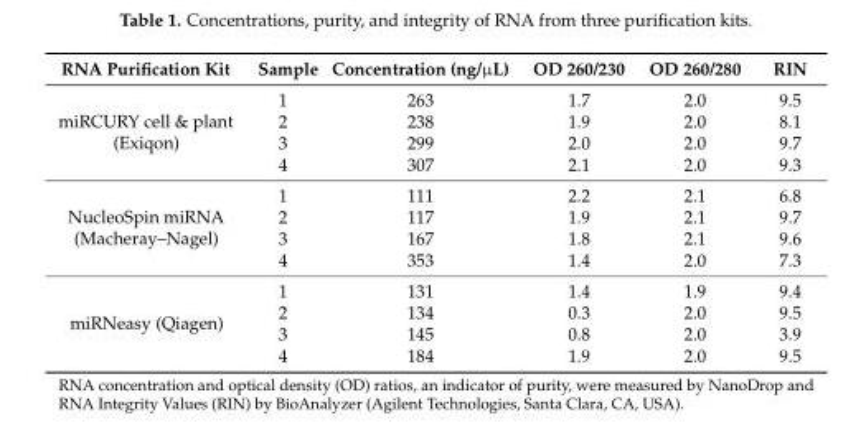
<table><thead><tr><td>RNA Purification Kit</td><td>Sample</td><td>Concentration (ng/µL)</td><td>OD 260/230</td><td>OD 260/280</td><td>RIN</td></tr></thead><tbody><tr><td rowspan="4">miRCURY cell &amp; plant (Exiqon)</td><td>1</td><td>263</td><td>1.7</td><td>2.0</td><td>9.5</td></tr><tr><td>2</td><td>238</td><td>1.9</td><td>2.0</td><td>8.1</td></tr><tr><td>3</td><td>299</td><td>2.0</td><td>2.0</td><td>9.7</td></tr><tr><td>4</td><td>307</td><td>2.1</td><td>2.0</td><td>9.3</td></tr><tr><td rowspan="4">NucleoSpin miRNA (Macheray–Nagel)</td><td>1</td><td>111</td><td>2.2</td><td>2.1</td><td>6.8</td></tr><tr><td>2</td><td>117</td><td>1.9</td><td>2.1</td><td>9.7</td></tr><tr><td>3</td><td>167</td><td>1.8</td><td>2.1</td><td>9.6</td></tr><tr><td>4</td><td>353</td><td>1.4</td><td>2.0</td><td>7.3</td></tr><tr><td rowspan="4">miRNeasy (Qiagen)</td><td>1</td><td>131</td><td>1.4</td><td>1.9</td><td>9.4</td></tr><tr><td>2</td><td>134</td><td>0.3</td><td>2.0</td><td>9.5</td></tr><tr><td>3</td><td>145</td><td>0.8</td><td>2.0</td><td>3.9</td></tr><tr><td>4</td><td>184</td><td>1.9</td><td>2.0</td><td>9.5</td></tr></tbody></table>